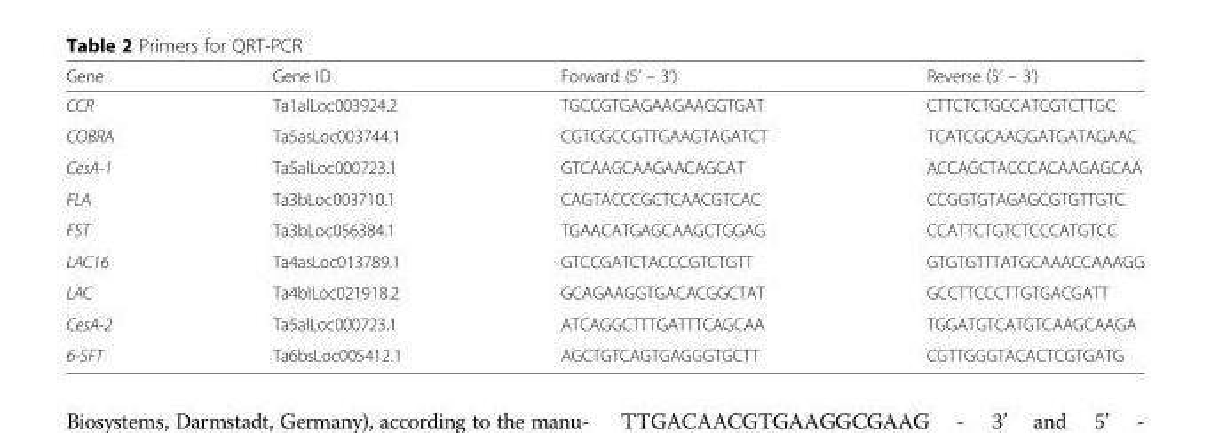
<table><thead><tr><td>Gene</td><td>Gene ID</td><td>Forward (5’ – 3’)</td><td>Reverse (5’ – 3’)</td></tr></thead><tbody><tr><td>CCR</td><td>Ta1alLoc003924.2</td><td>TGCCGTGAGAAGAAGGTGAT</td><td>CTTCTCTGCCATCGTCTTGC</td></tr><tr><td>COBRA</td><td>Ta5asLoc003744.1</td><td>CGTCGCCGTTGAAGTAGATCT</td><td>TCATCGCAAGGATGATAGAAC</td></tr><tr><td>CesA-1</td><td>Ta5alLoc000723.1</td><td>GTCAAGCAAGAACAGCAT</td><td>ACCAGCTACCCACAAGAGCAA</td></tr><tr><td>FLA</td><td>Ta3bLoc003710.1</td><td>CAGTACCCGCTCAACGTCAC</td><td>CCGGTGTAGAGCGTGTTGTC</td></tr><tr><td>FST</td><td>Ta3bLoc056384.1</td><td>TGAACATGAGCAAGCTGGAG</td><td>CCATTCTGTCTCCCATGTCC</td></tr><tr><td>LAC16</td><td>Ta4asLoc013789.1</td><td>GTCCGATCTACCCGTCTGTT</td><td>GTGTGTTTATGCAAACCAAAGG</td></tr><tr><td>LAC</td><td>Ta4blLoc021918.2</td><td>GCAGAAGGTGACACGGCTAT</td><td>GCCTTCCCTTGTGACGATT</td></tr><tr><td>CesA-2</td><td>Ta5alLoc000723.1</td><td>ATCAGGCTTTGATTTCAGCAA</td><td>TGGATGTCATGTCAAGCAAGA</td></tr><tr><td>6-SFT</td><td>Ta6bsLoc005412.1</td><td>AGCTGTCAGTGAGGGTGCTT</td><td>CGTTGGGTACACTCGTGATG</td></tr></tbody></table>